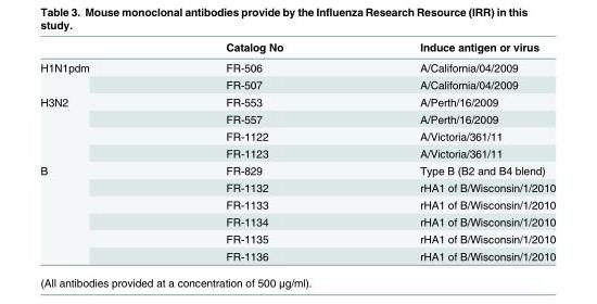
<table><thead><tr><td></td><td>Catalog No</td><td>Induce antigen or virus</td></tr></thead><tbody><tr><td rowspan="2">H1N1pdm</td><td>FR-506</td><td>A/California/04/2009</td></tr><tr><td>FR-507</td><td>A/California/04/2009</td></tr><tr><td rowspan="4">H3N2</td><td>FR-553</td><td>A/Perth/16/2009</td></tr><tr><td>FR-557</td><td>A/Perth/16/2009</td></tr><tr><td>FR-1122</td><td>A/Victoria/361/11</td></tr><tr><td>FR-1123</td><td>A/Victoria/361/11</td></tr><tr><td rowspan="6">B</td><td>FR-829</td><td>Type B (B2 and B4 blend)</td></tr><tr><td>FR-1132</td><td>rHA1 of B/Wisconsin/1/2010</td></tr><tr><td>FR-1133</td><td>rHA1 of B/Wisconsin/1/2010</td></tr><tr><td>FR-1134</td><td>rHA1 of B/Wisconsin/1/2010</td></tr><tr><td>FR-1135</td><td>rHA1 of B/Wisconsin/1/2010</td></tr><tr><td>FR-1136</td><td>rHA1 of B/Wisconsin/1/2010</td></tr></tbody></table>